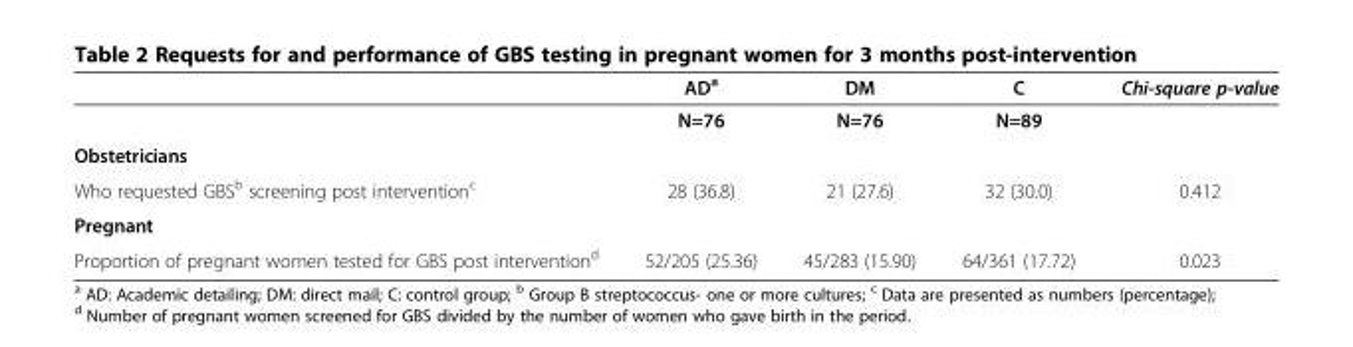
<table><thead><tr><td></td><td>AD<sup>a</sup></td><td>DM</td><td>C</td><td>Chi-square p-value</td></tr></thead><tbody><tr><td></td><td>N=76</td><td>N=76</td><td>N=89</td><td></td></tr><tr><td colspan="5">Obstetricians</td></tr><tr><td>Who requested GBS<sup>b</sup> screening post intervention<sup>c</sup></td><td>28 (36.8)</td><td>21 (27.6)</td><td>32 (30.0)</td><td>0.412</td></tr><tr><td colspan="5">Pregnant</td></tr><tr><td>Proportion of pregnant women tested for GBS post intervention<sup>d</sup></td><td>52/205 (25.36)</td><td>45/283 (15.90)</td><td>64/361 (17.72)</td><td>0.023</td></tr></tbody></table>